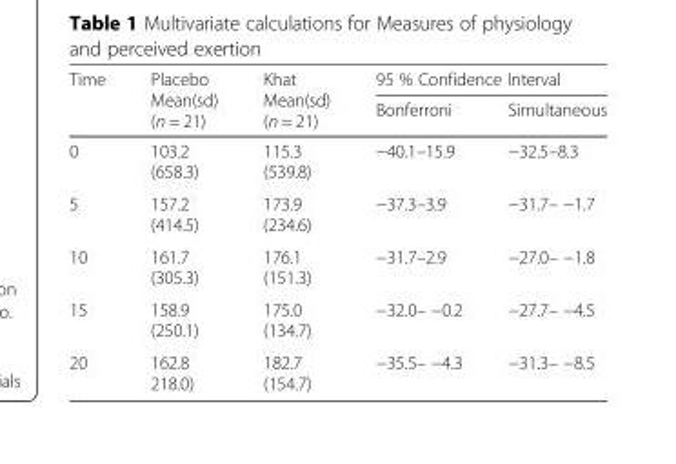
<table><thead><tr><td rowspan="2">Time</td><td rowspan="2">Placebo Mean(sd) (n = 21)</td><td rowspan="2">Khat Mean(sd) (n = 21)</td><td colspan="2">95 % Confidence Interval</td></tr><tr><td>Bonferroni</td><td>Simultaneous</td></tr></thead><tbody><tr><td>0</td><td>103.2 (658.3)</td><td>115.3 (539.8)</td><td>−40.1–15.9</td><td>−32.5–8.3</td></tr><tr><td>5</td><td>157.2 (414.5)</td><td>173.9 (234.6)</td><td>−37.3–3.9</td><td>−31.7– −1.7</td></tr><tr><td>10</td><td>161.7 (305.3)</td><td>176.1 (151.3)</td><td>−31.7–2.9</td><td>−27.0– −1.8</td></tr><tr><td>15</td><td>158.9 (250.1)</td><td>175.0 (134.7)</td><td>−32.0– −0.2</td><td>−27.7– −4.5</td></tr><tr><td>20</td><td>162.8 218.0)</td><td>182.7 (154.7)</td><td>−35.5– −4.3</td><td>−31.3– −8.5</td></tr></tbody></table>